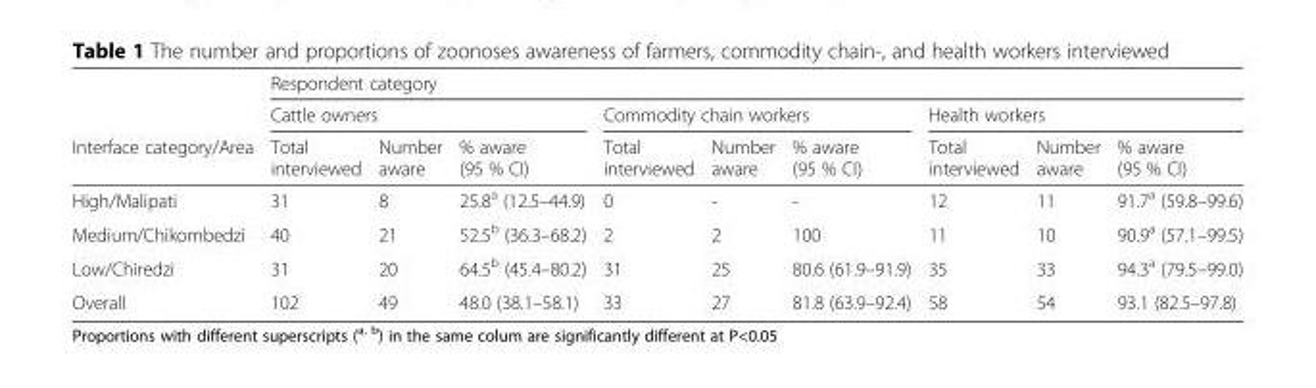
<table><thead><tr><td rowspan="3">Interface category/Area</td><td colspan="9">Respondent category</td></tr><tr><td colspan="3">Cattle owners</td><td colspan="3">Commodity chain workers</td><td colspan="3">Health workers</td></tr><tr><td>Total interviewed</td><td>Number aware</td><td>% aware (95 % CI)</td><td>Total interviewed</td><td>Number aware</td><td>% aware (95 % CI)</td><td>Total interviewed</td><td>Number aware</td><td>% aware (95 % CI)</td></tr></thead><tbody><tr><td>High/Malipati</td><td>31</td><td>8</td><td>25.8<sup>a</sup> (12.5–44.9)</td><td>0</td><td>-</td><td>-</td><td>12</td><td>11</td><td>91.7<sup>a</sup> (59.8–99.6)</td></tr><tr><td>Medium/Chikombedzi</td><td>40</td><td>21</td><td>52.5<sup>b</sup> (36.3–68.2)</td><td>2</td><td>2</td><td>100</td><td>11</td><td>10</td><td>90.9<sup>a</sup> (57.1–99.5)</td></tr><tr><td>Low/Chiredzi</td><td>31</td><td>20</td><td>64.5<sup>b</sup> (45.4–80.2)</td><td>31</td><td>25</td><td>80.6 (61.9–91.9)</td><td>35</td><td>33</td><td>94.3<sup>a</sup> (79.5–99.0)</td></tr><tr><td>Overall</td><td>102</td><td>49</td><td>48.0 (38.1–58.1)</td><td>33</td><td>27</td><td>81.8 (63.9–92.4)</td><td>58</td><td>54</td><td>93.1 (82.5–97.8)</td></tr></tbody></table>